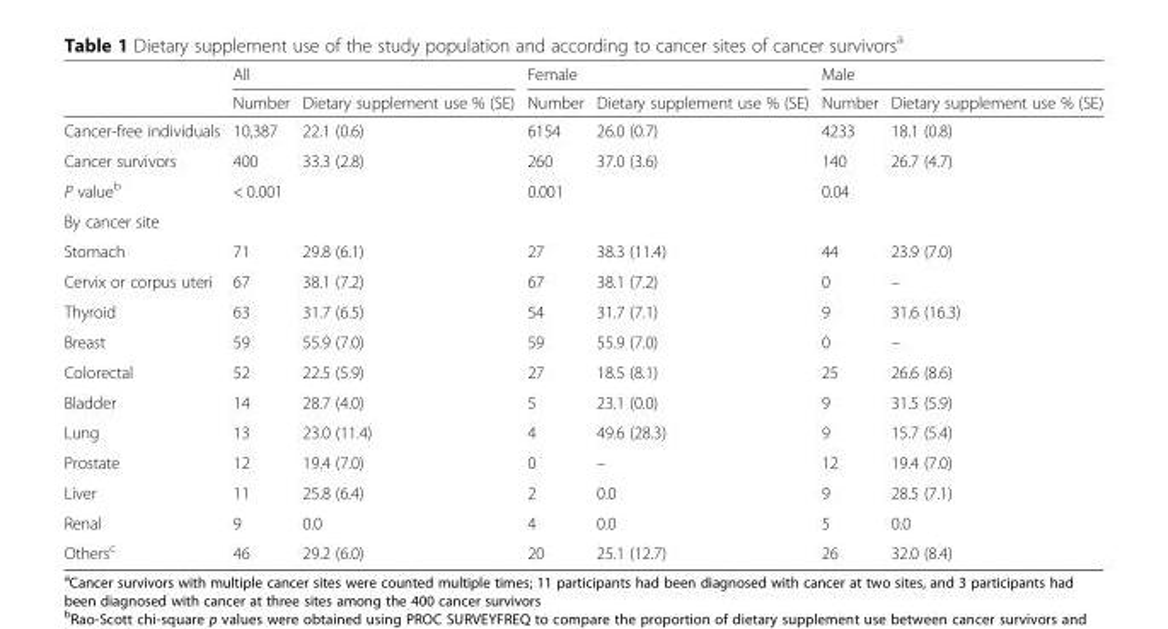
<table><thead><tr><td rowspan="2"></td><td colspan="2">All</td><td colspan="2">Female</td><td colspan="2">Male</td></tr><tr><td>Number</td><td>Dietary supplement use % (SE)</td><td>Number</td><td>Dietary supplement use % (SE)</td><td>Number</td><td>Dietary supplement use % (SE)</td></tr></thead><tbody><tr><td>Cancer-free individuals</td><td>10,387</td><td>22.1 (0.6)</td><td>6154</td><td>26.0 (0.7)</td><td>4233</td><td>18.1 (0.8)</td></tr><tr><td>Cancer survivors</td><td>400</td><td>33.3 (2.8)</td><td>260</td><td>37.0 (3.6)</td><td>140</td><td>26.7 (4.7)</td></tr><tr><td>P value<sup>b</sup></td><td colspan="2">&lt; 0.001</td><td colspan="2">0.001</td><td colspan="2">0.04</td></tr><tr><td colspan="7">By cancer site</td></tr><tr><td>Stomach</td><td>71</td><td>29.8 (6.1)</td><td>27</td><td>38.3 (11.4)</td><td>44</td><td>23.9 (7.0)</td></tr><tr><td>Cervix or corpus uteri</td><td>67</td><td>38.1 (7.2)</td><td>67</td><td>38.1 (7.2)</td><td>0</td><td>–</td></tr><tr><td>Thyroid</td><td>63</td><td>31.7 (6.5)</td><td>54</td><td>31.7 (7.1)</td><td>9</td><td>31.6 (16.3)</td></tr><tr><td>Breast</td><td>59</td><td>55.9 (7.0)</td><td>59</td><td>55.9 (7.0)</td><td>0</td><td>–</td></tr><tr><td>Colorectal</td><td>52</td><td>22.5 (5.9)</td><td>27</td><td>18.5 (8.1)</td><td>25</td><td>26.6 (8.6)</td></tr><tr><td>Bladder</td><td>14</td><td>28.7 (4.0)</td><td>5</td><td>23.1 (0.0)</td><td>9</td><td>31.5 (5.9)</td></tr><tr><td>Lung</td><td>13</td><td>23.0 (11.4)</td><td>4</td><td>49.6 (28.3)</td><td>9</td><td>15.7 (5.4)</td></tr><tr><td>Prostate</td><td>12</td><td>19.4 (7.0)</td><td>0</td><td>–</td><td>12</td><td>19.4 (7.0)</td></tr><tr><td>Liver</td><td>11</td><td>25.8 (6.4)</td><td>2</td><td>0.0</td><td>9</td><td>28.5 (7.1)</td></tr><tr><td>Renal</td><td>9</td><td>0.0</td><td>4</td><td>0.0</td><td>5</td><td>0.0</td></tr><tr><td>Others<sup>c</sup></td><td>46</td><td>29.2 (6.0)</td><td>20</td><td>25.1 (12.7)</td><td>26</td><td>32.0 (8.4)</td></tr></tbody></table>